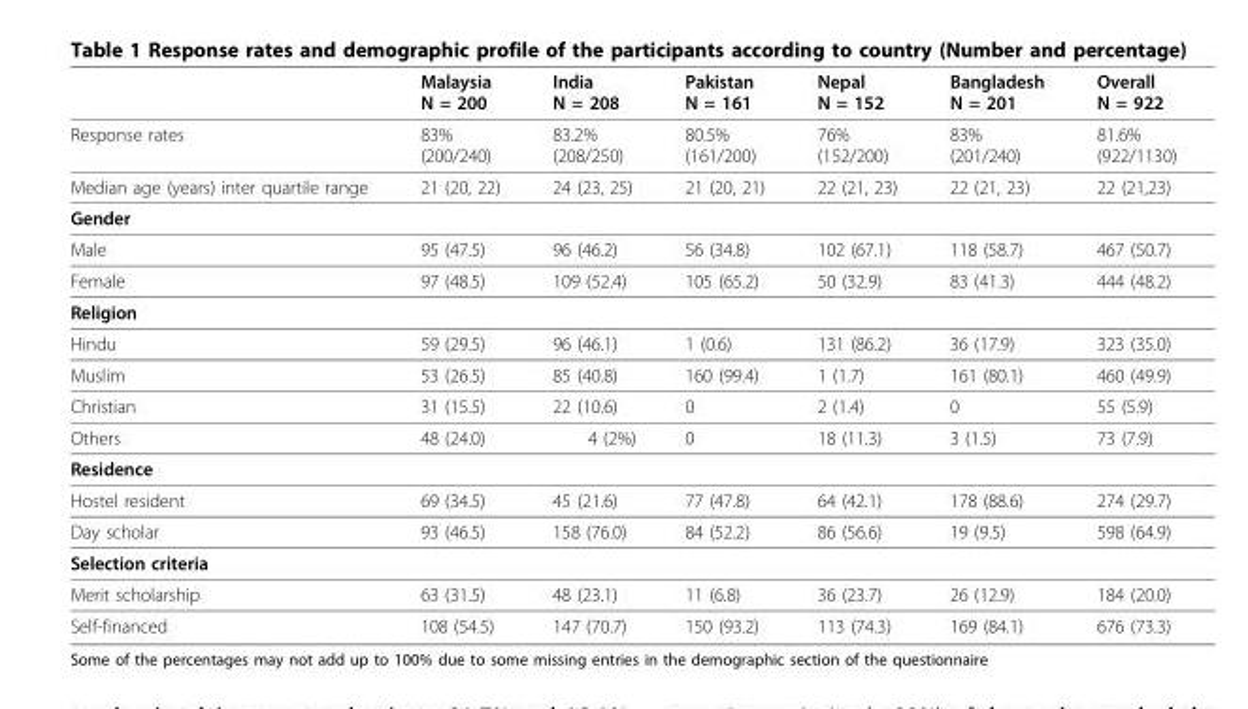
<table><thead><tr><td></td><td>Malaysia N = 200</td><td>India N = 208</td><td>Pakistan N = 161</td><td>Nepal N = 152</td><td>Bangladesh N = 201</td><td>Overall N = 922</td></tr></thead><tbody><tr><td>Response rates</td><td>83% (200/240)</td><td>83.2% (208/250)</td><td>80.5% (161/200)</td><td>76% (152/200)</td><td>83% (201/240)</td><td>81.6% (922/1130)</td></tr><tr><td>Median age (years) inter quartile range</td><td>21 (20, 22)</td><td>24 (23, 25)</td><td>21 (20, 21)</td><td>22 (21, 23)</td><td>22 (21, 23)</td><td>22 (21,23)</td></tr><tr><td colspan="7">Gender</td></tr><tr><td>Male</td><td>95 (47.5)</td><td>96 (46.2)</td><td>56 (34.8)</td><td>102 (67.1)</td><td>118 (58.7)</td><td>467 (50.7)</td></tr><tr><td>Female</td><td>97 (48.5)</td><td>109 (52.4)</td><td>105 (65.2)</td><td>50 (32.9)</td><td>83 (41.3)</td><td>444 (48.2)</td></tr><tr><td colspan="7">Religion</td></tr><tr><td>Hindu</td><td>59 (29.5)</td><td>96 (46.1)</td><td>1 (0.6)</td><td>131 (86.2)</td><td>36 (17.9)</td><td>323 (35.0)</td></tr><tr><td>Muslim</td><td>53 (26.5)</td><td>85 (40.8)</td><td>160 (99.4)</td><td>1 (1.7)</td><td>161 (80.1)</td><td>460 (49.9)</td></tr><tr><td>Christian</td><td>31 (15.5)</td><td>22 (10.6)</td><td>0</td><td>2 (1.4)</td><td>0</td><td>55 (5.9)</td></tr><tr><td>Others</td><td>48 (24.0)</td><td>4 (2%)</td><td>0</td><td>18 (11.3)</td><td>3 (1.5)</td><td>73 (7.9)</td></tr><tr><td colspan="7">Residence</td></tr><tr><td>Hostel resident</td><td>69 (34.5)</td><td>45 (21.6)</td><td>77 (47.8)</td><td>64 (42.1)</td><td>178 (88.6)</td><td>274 (29.7)</td></tr><tr><td>Day scholar</td><td>93 (46.5)</td><td>158 (76.0)</td><td>84 (52.2)</td><td>86 (56.6)</td><td>19 (9.5)</td><td>598 (64.9)</td></tr><tr><td colspan="7">Selection criteria</td></tr><tr><td>Merit scholarship</td><td>63 (31.5)</td><td>48 (23.1)</td><td>11 (6.8)</td><td>36 (23.7)</td><td>26 (12.9)</td><td>184 (20.0)</td></tr><tr><td>Self-financed</td><td>108 (54.5)</td><td>147 (70.7)</td><td>150 (93.2)</td><td>113 (74.3)</td><td>169 (84.1)</td><td>676 (73.3)</td></tr></tbody></table>